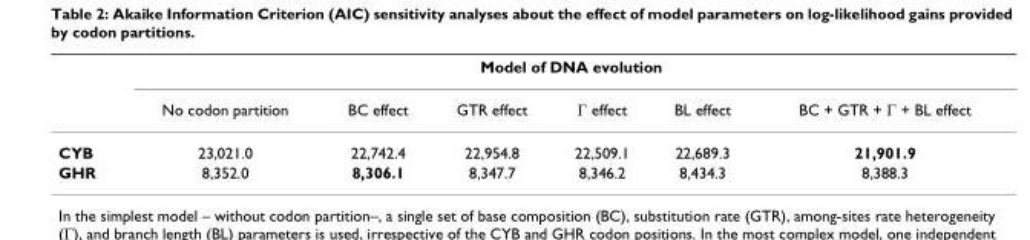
<table><thead><tr><td rowspan="2"></td><td colspan="6">Model of DNA evolution</td></tr><tr><td>No codon partition</td><td>BC effect</td><td>GTR effect</td><td>Γ effect</td><td>BL effect</td><td>BC + GTR + Γ + BL effect</td></tr></thead><tbody><tr><td>CYB</td><td>23,021.0</td><td>22,742.4</td><td>22,954.8</td><td>22,509.1</td><td>22,689.3</td><td>21,901.9</td></tr><tr><td>GHR</td><td>8,352.0</td><td>8,306.1</td><td>8,347.7</td><td>8,346.2</td><td>8,434.3</td><td>8,388.3</td></tr></tbody></table>